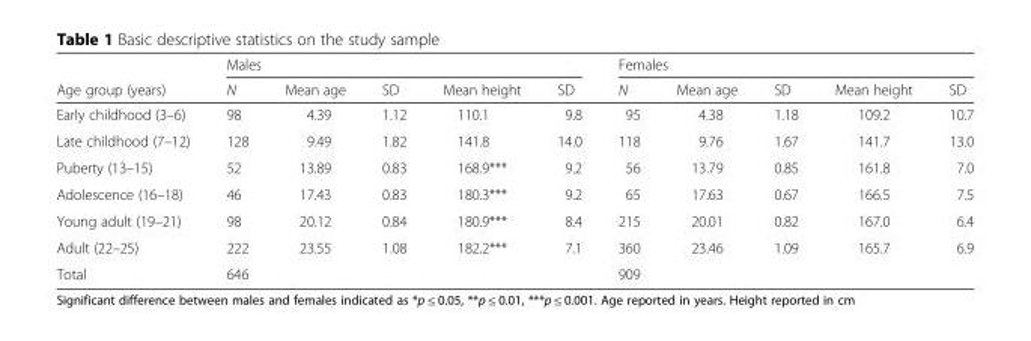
<table><thead><tr><td rowspan="2">Age group (years)</td><td colspan="5">Males</td><td colspan="5">Females</td></tr><tr><td>N</td><td>Mean age</td><td>SD</td><td>Mean height</td><td>SD</td><td>N</td><td>Mean age</td><td>SD</td><td>Mean height</td><td>SD</td></tr></thead><tbody><tr><td>Early childhood (3–6)</td><td>98</td><td>4.39</td><td>1.12</td><td>110.1</td><td>9.8</td><td>95</td><td>4.38</td><td>1.18</td><td>109.2</td><td>10.7</td></tr><tr><td>Late childhood (7–12)</td><td>128</td><td>9.49</td><td>1.82</td><td>141.8</td><td>14.0</td><td>118</td><td>9.76</td><td>1.67</td><td>141.7</td><td>13.0</td></tr><tr><td>Puberty (13–15)</td><td>52</td><td>13.89</td><td>0.83</td><td>168.9***</td><td>9.2</td><td>56</td><td>13.79</td><td>0.85</td><td>161.8</td><td>7.0</td></tr><tr><td>Adolescence (16–18)</td><td>46</td><td>17.43</td><td>0.83</td><td>180.3***</td><td>9.2</td><td>65</td><td>17.63</td><td>0.67</td><td>166.5</td><td>7.5</td></tr><tr><td>Young adult (19–21)</td><td>98</td><td>20.12</td><td>0.84</td><td>180.9***</td><td>8.4</td><td>215</td><td>20.01</td><td>0.82</td><td>167.0</td><td>6.4</td></tr><tr><td>Adult (22–25)</td><td>222</td><td>23.55</td><td>1.08</td><td>182.2***</td><td>7.1</td><td>360</td><td>23.46</td><td>1.09</td><td>165.7</td><td>6.9</td></tr><tr><td>Total</td><td>646</td><td></td><td></td><td></td><td></td><td>909</td><td></td><td></td><td></td><td></td></tr></tbody></table>